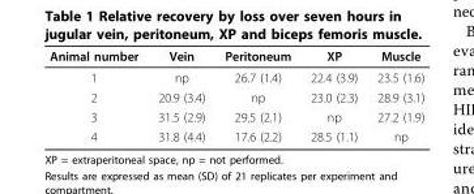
<table><thead><tr><td>Animal number</td><td>Vein</td><td>Peritoneum</td><td>XP</td><td>Muscle</td></tr></thead><tbody><tr><td>1</td><td>np</td><td>26.7 (1.4)</td><td>22.4 (3.9)</td><td>23.5 (1.6)</td></tr><tr><td>2</td><td>20.9 (3.4)</td><td>np</td><td>23.0 (2.3)</td><td>28.9 (3.1)</td></tr><tr><td>3</td><td>31.5 (2.9)</td><td>29.5 (2.1)</td><td>np</td><td>27.2 (1.9)</td></tr><tr><td>4</td><td>31.8 (4.4)</td><td>17.6 (2.2)</td><td>28.5 (1.1)</td><td>np</td></tr></tbody></table>